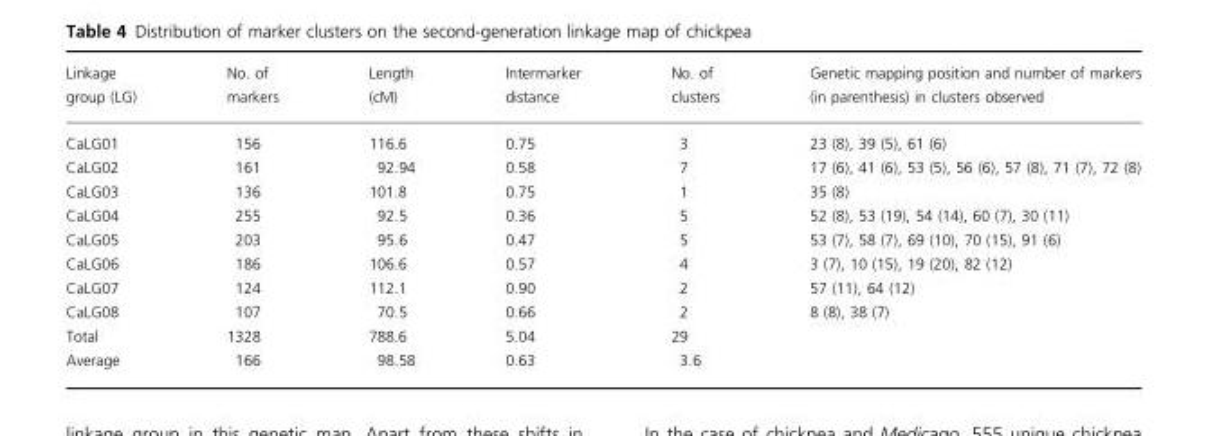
<table><thead><tr><td>Linkage group (LG)</td><td>No. of markers</td><td>Length (cM)</td><td>Intermarker distance</td><td>No. of clusters</td><td>Genetic mapping position and number of markers (in parenthesis) in clusters observed</td></tr></thead><tbody><tr><td>CaLG01</td><td>156</td><td>116.6</td><td>0.75</td><td>3</td><td>23 (8), 39 (5), 61 (6)</td></tr><tr><td>CaLG02</td><td>161</td><td>92.94</td><td>0.58</td><td>7</td><td>17 (6), 41 (6), 53 (5), 56 (6), 57 (8), 71 (7), 72 (8)</td></tr><tr><td>CaLG03</td><td>136</td><td>101.8</td><td>0.75</td><td>1</td><td>35 (8)</td></tr><tr><td>CaLG04</td><td>255</td><td>92.5</td><td>0.36</td><td>5</td><td>52 (8), 53 (19), 54 (14), 60 (7), 30 (11)</td></tr><tr><td>CaLG05</td><td>203</td><td>95.6</td><td>0.47</td><td>5</td><td>53 (7), 58 (7), 69 (10), 70 (15), 91 (6)</td></tr><tr><td>CaLG06</td><td>186</td><td>106.6</td><td>0.57</td><td>4</td><td>3 (7), 10 (15), 19 (20), 82 (12)</td></tr><tr><td>CaLG07</td><td>124</td><td>112.1</td><td>0.90</td><td>2</td><td>57 (11), 64 (12)</td></tr><tr><td>CaLG08</td><td>107</td><td>70.5</td><td>0.66</td><td>2</td><td>8 (8), 38 (7)</td></tr><tr><td>Total</td><td>1328</td><td>788.6</td><td>5.04</td><td>29</td><td></td></tr><tr><td>Average</td><td>166</td><td>98.58</td><td>0.63</td><td>3.6</td><td></td></tr></tbody></table>